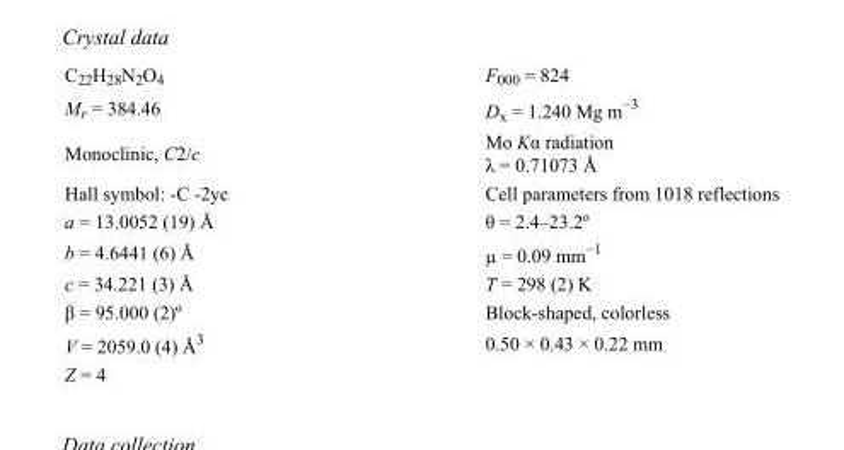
<table><tbody><tr><td>C<sub>22</sub>H<sub>28</sub>N<sub>2</sub>O<sub>4</sub></td><td>F<sub>000</sub> = 824</td></tr><tr><td>M<sub>r</sub> = 384.46</td><td>D<sub>x</sub> = 1.240 Mg m<sup>−3</sup></td></tr><tr><td>Monoclinic, C2/c</td><td>Mo Kα radiation λ = 0.71073 Å</td></tr><tr><td>Hall symbol: -C -2yc</td><td>Cell parameters from 1018 reflections</td></tr><tr><td>a = 13.0052 (19) Å</td><td>θ = 2.4–23.2º</td></tr><tr><td>b = 4.6441 (6) Å</td><td>µ = 0.09 mm<sup>−1</sup></td></tr><tr><td>c = 34.221 (3) Å</td><td>T = 298 (2) K</td></tr><tr><td>β = 95.000 (2)º</td><td>Block-shaped, colorless</td></tr><tr><td>V = 2059.0 (4) Å<sup>3</sup></td><td>0.50 × 0.43 × 0.22 mm</td></tr><tr><td>Z = 4</td><td></td></tr></tbody></table>